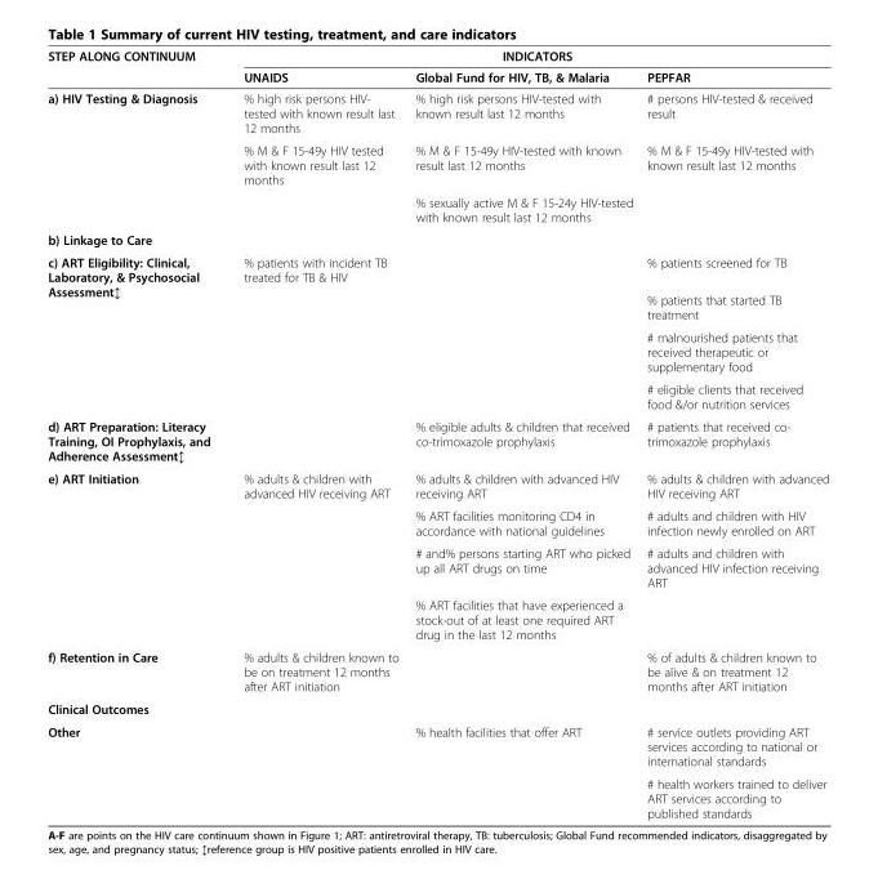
<table><thead><tr><td rowspan="2">STEP ALONG CONTINUUM</td><td colspan="3">INDICATORS</td></tr><tr><td>UNAIDS</td><td>Global Fund for HIV, TB, &amp; Malaria</td><td>PEPFAR</td></tr></thead><tbody><tr><td rowspan="3">a) HIV Testing &amp; Diagnosis</td><td>% high risk persons HIV- tested with known result last 12 months</td><td>% high risk persons HIV-tested with known result last 12 months</td><td># persons HIV-tested &amp; received result</td></tr><tr><td>% M &amp; F 15-49y HIV tested with known result last 12 months</td><td>% M &amp; F 15-49y HIV-tested with known result last 12 months</td><td>% M &amp; F 15-49y HIV-tested with known result last 12 months</td></tr><tr><td></td><td>% sexually active M &amp; F 15-24y HIV-tested with known result last 12 months</td><td></td></tr><tr><td colspan="4">b) Linkage to Care</td></tr><tr><td rowspan="4">c) ART Eligibility: Clinical, Laboratory, &amp; Psychosocial Assessment↕</td><td>% patients with incident TB treated for TB &amp; HIV</td><td></td><td>% patients screened for TB</td></tr><tr><td></td><td></td><td>% patients that started TB treatment</td></tr><tr><td></td><td></td><td># malnourished patients that received therapeutic or supplementary food</td></tr><tr><td></td><td></td><td># eligible clients that received food &amp;/or nutrition services</td></tr><tr><td>d) ART Preparation: Literacy Training, OI Prophylaxis, and Adherence Assessment↕</td><td></td><td>% eligible adults &amp; children that received co-trimoxazole prophylaxis</td><td># patients that received co- trimoxazole prophylaxis</td></tr><tr><td rowspan="4">e) ART Initiation</td><td>% adults &amp; children with advanced HIV receiving ART</td><td>% adults &amp; children with advanced HIV receiving ART</td><td>% adults &amp; children with advanced HIV receiving ART</td></tr><tr><td></td><td>% ART facilities monitoring CD4 in accordance with national guidelines</td><td># adults and children with HIV infection newly enrolled on ART</td></tr><tr><td></td><td># and% persons starting ART who picked up all ART drugs on time</td><td># adults and children with advanced HIV infection receiving ART</td></tr><tr><td></td><td>% ART facilities that have experienced a stock-out of at least one required ART drug in the last 12 months</td><td></td></tr><tr><td>f) Retention in Care</td><td>% adults &amp; children known to be on treatment 12 months after ART initiation</td><td></td><td>% of adults &amp; children known to be alive &amp; on treatment 12 months after ART initiation</td></tr><tr><td colspan="4">Clinical Outcomes</td></tr><tr><td rowspan="2">Other</td><td></td><td>% health facilities that offer ART</td><td># service outlets providing ART services according to national or international standards</td></tr><tr><td></td><td></td><td># health workers trained to deliver ART services according to published standards</td></tr></tbody></table>